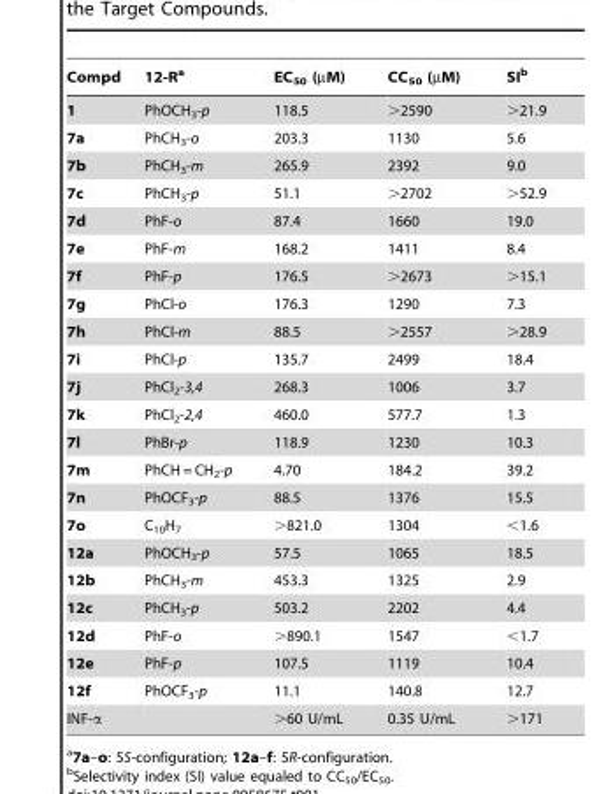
<table><thead><tr><td>Compd</td><td>12-R<sup>a</sup></td><td>EC<sub>50</sub> (µM)</td><td>CC<sub>50</sub> (µM)</td><td>SI<sup>b</sup></td></tr></thead><tbody><tr><td>1</td><td>PhOCH<sub>3</sub>-p</td><td>118.5</td><td>&gt;2590</td><td>&gt;21.9</td></tr><tr><td>7a</td><td>PhCH<sub>3</sub>-o</td><td>203.3</td><td>1130</td><td>5.6</td></tr><tr><td>7b</td><td>PhCH<sub>3</sub>-m</td><td>265.9</td><td>2392</td><td>9.0</td></tr><tr><td>7c</td><td>PhCH<sub>3</sub>-p</td><td>51.1</td><td>&gt;2702</td><td>&gt;52.9</td></tr><tr><td>7d</td><td>PhF-o</td><td>87.4</td><td>1660</td><td>19.0</td></tr><tr><td>7e</td><td>PhF-m</td><td>168.2</td><td>1411</td><td>8.4</td></tr><tr><td>7f</td><td>PhF-p</td><td>176.5</td><td>&gt;2673</td><td>&gt;15.1</td></tr><tr><td>7g</td><td>PhCl-o</td><td>176.3</td><td>1290</td><td>7.3</td></tr><tr><td>7h</td><td>PhCl-m</td><td>88.5</td><td>&gt;2557</td><td>&gt;28.9</td></tr><tr><td>7i</td><td>PhCl-p</td><td>135.7</td><td>2499</td><td>18.4</td></tr><tr><td>7j</td><td>PhCl<sub>2</sub>-3,4</td><td>268.3</td><td>1006</td><td>3.7</td></tr><tr><td>7k</td><td>PhCl<sub>2</sub>-2,4</td><td>460.0</td><td>577.7</td><td>1.3</td></tr><tr><td>7l</td><td>PhBr-p</td><td>118.9</td><td>1230</td><td>10.3</td></tr><tr><td>7m</td><td>PhCH = CH<sub>2</sub>-p</td><td>4.70</td><td>184.2</td><td>39.2</td></tr><tr><td>7n</td><td>PhOCF<sub>3</sub>-p</td><td>88.5</td><td>1376</td><td>15.5</td></tr><tr><td>7o</td><td>C<sub>10</sub>H<sub>7</sub></td><td>&gt;821.0</td><td>1304</td><td>&lt;1.6</td></tr><tr><td>12a</td><td>PhOCH<sub>3</sub>-p</td><td>57.5</td><td>1065</td><td>18.5</td></tr><tr><td>12b</td><td>PhCH<sub>3</sub>-m</td><td>453.3</td><td>1325</td><td>2.9</td></tr><tr><td>12c</td><td>PhCH<sub>3</sub>-p</td><td>503.2</td><td>2202</td><td>4.4</td></tr><tr><td>12d</td><td>PhF-o</td><td>&gt;890.1</td><td>1547</td><td>&lt;1.7</td></tr><tr><td>12e</td><td>PhF-p</td><td>107.5</td><td>1119</td><td>10.4</td></tr><tr><td>12f</td><td>PhOCF<sub>3</sub>-p</td><td>11.1</td><td>140.8</td><td>12.7</td></tr><tr><td>INF-α</td><td></td><td>&gt;60 U/mL</td><td>0.35 U/mL</td><td>&gt;171</td></tr></tbody></table>